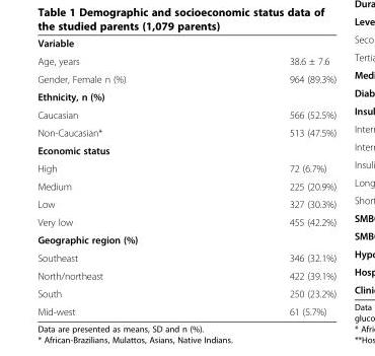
<table><tbody><tr><td colspan="2">Variable</td></tr><tr><td>Age, years</td><td>38.6 ± 7.6</td></tr><tr><td>Gender, Female n (%)</td><td>964 (89.3%)</td></tr><tr><td colspan="2">Ethnicity, n (%)</td></tr><tr><td>Caucasian</td><td>566 (52.5%)</td></tr><tr><td>Non-Caucasian*</td><td>513 (47.5%)</td></tr><tr><td colspan="2">Economic status</td></tr><tr><td>High</td><td>72 (6.7%)</td></tr><tr><td>Medium</td><td>225 (20.9%)</td></tr><tr><td>Low</td><td>327 (30.3%)</td></tr><tr><td>Very low</td><td>455 (42.2%)</td></tr><tr><td colspan="2">Geographic region (%)</td></tr><tr><td>Southeast</td><td>346 (32.1%)</td></tr><tr><td>North/northeast</td><td>422 (39.1%)</td></tr><tr><td>South</td><td>250 (23.2%)</td></tr><tr><td>Mid-west</td><td>61 (5.7%)</td></tr></tbody></table>